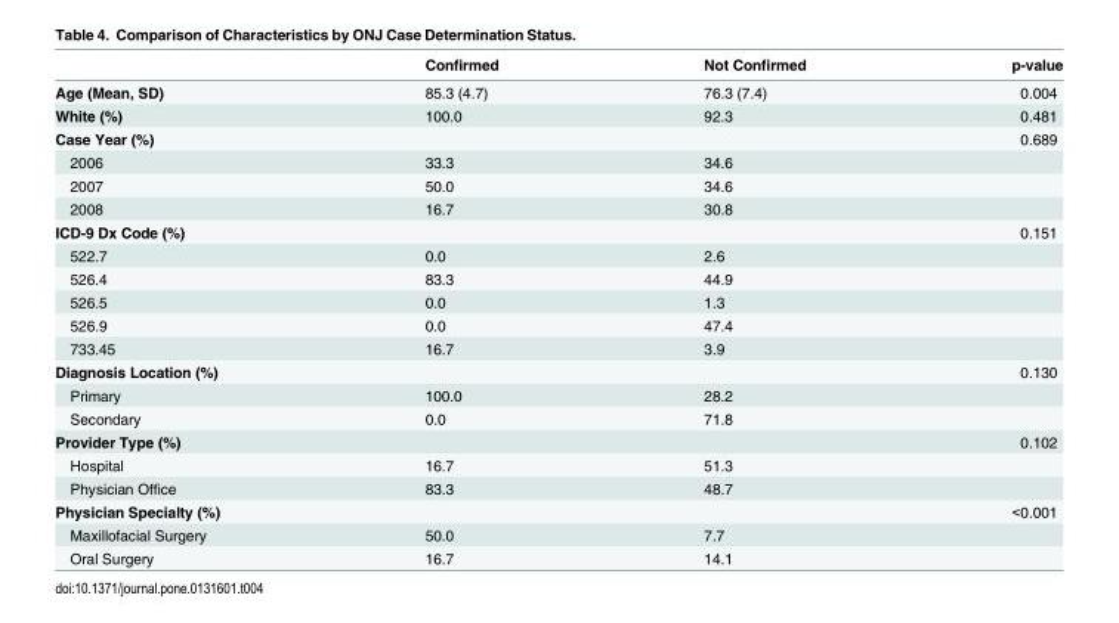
<table><thead><tr><td></td><td>Confirmed</td><td>Not Confirmed</td><td>p-value</td></tr></thead><tbody><tr><td>Age (Mean, SD)</td><td>85.3 (4.7)</td><td>76.3 (7.4)</td><td>0.004</td></tr><tr><td>White (%)</td><td>100.0</td><td>92.3</td><td>0.481</td></tr><tr><td>Case Year (%)</td><td></td><td></td><td>0.689</td></tr><tr><td>2006</td><td>33.3</td><td>34.6</td><td></td></tr><tr><td>2007</td><td>50.0</td><td>34.6</td><td></td></tr><tr><td>2008</td><td>16.7</td><td>30.8</td><td></td></tr><tr><td>ICD-9 Dx Code (%)</td><td></td><td></td><td>0.151</td></tr><tr><td>522.7</td><td>0.0</td><td>2.6</td><td></td></tr><tr><td>526.4</td><td>83.3</td><td>44.9</td><td></td></tr><tr><td>526.5</td><td>0.0</td><td>1.3</td><td></td></tr><tr><td>526.9</td><td>0.0</td><td>47.4</td><td></td></tr><tr><td>733.45</td><td>16.7</td><td>3.9</td><td></td></tr><tr><td>Diagnosis Location (%)</td><td></td><td></td><td>0.130</td></tr><tr><td>Primary</td><td>100.0</td><td>28.2</td><td></td></tr><tr><td>Secondary</td><td>0.0</td><td>71.8</td><td></td></tr><tr><td>Provider Type (%)</td><td></td><td></td><td>0.102</td></tr><tr><td>Hospital</td><td>16.7</td><td>51.3</td><td></td></tr><tr><td>Physician Office</td><td>83.3</td><td>48.7</td><td></td></tr><tr><td>Physician Specialty (%)</td><td></td><td></td><td>&lt;0.001</td></tr><tr><td>Maxillofacial Surgery</td><td>50.0</td><td>7.7</td><td></td></tr><tr><td>Oral Surgery</td><td>16.7</td><td>14.1</td><td></td></tr></tbody></table>